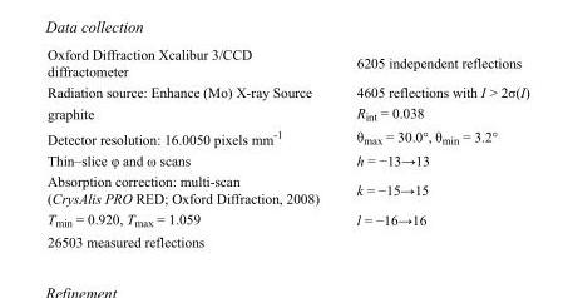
<table><tbody><tr><td>Oxford Diffraction Xcalibur 3/CCD diffractometer</td><td>6205 independent reflections</td></tr><tr><td>Radiation source: Enhance (Mo) X-ray Source</td><td>4605 reflections with I &gt; 2σ(I)</td></tr><tr><td>graphite</td><td>R<sub>int</sub> = 0.038</td></tr><tr><td>Detector resolution: 16.0050 pixels mm<sup>-1</sup></td><td>θ<sub>max</sub> = 30.0°, θ<sub>min</sub> = 3.2°</td></tr><tr><td>Thin–slice φ and ω scans</td><td>h = −13→13</td></tr><tr><td>Absorption correction: multi-scan (CrysAlis PRO RED; Oxford Diffraction, 2008)</td><td>k = −15→15</td></tr><tr><td>T<sub>min</sub> = 0.920, T<sub>max</sub> = 1.059</td><td>l = −16→16</td></tr><tr><td>26503 measured reflections</td><td></td></tr></tbody></table>